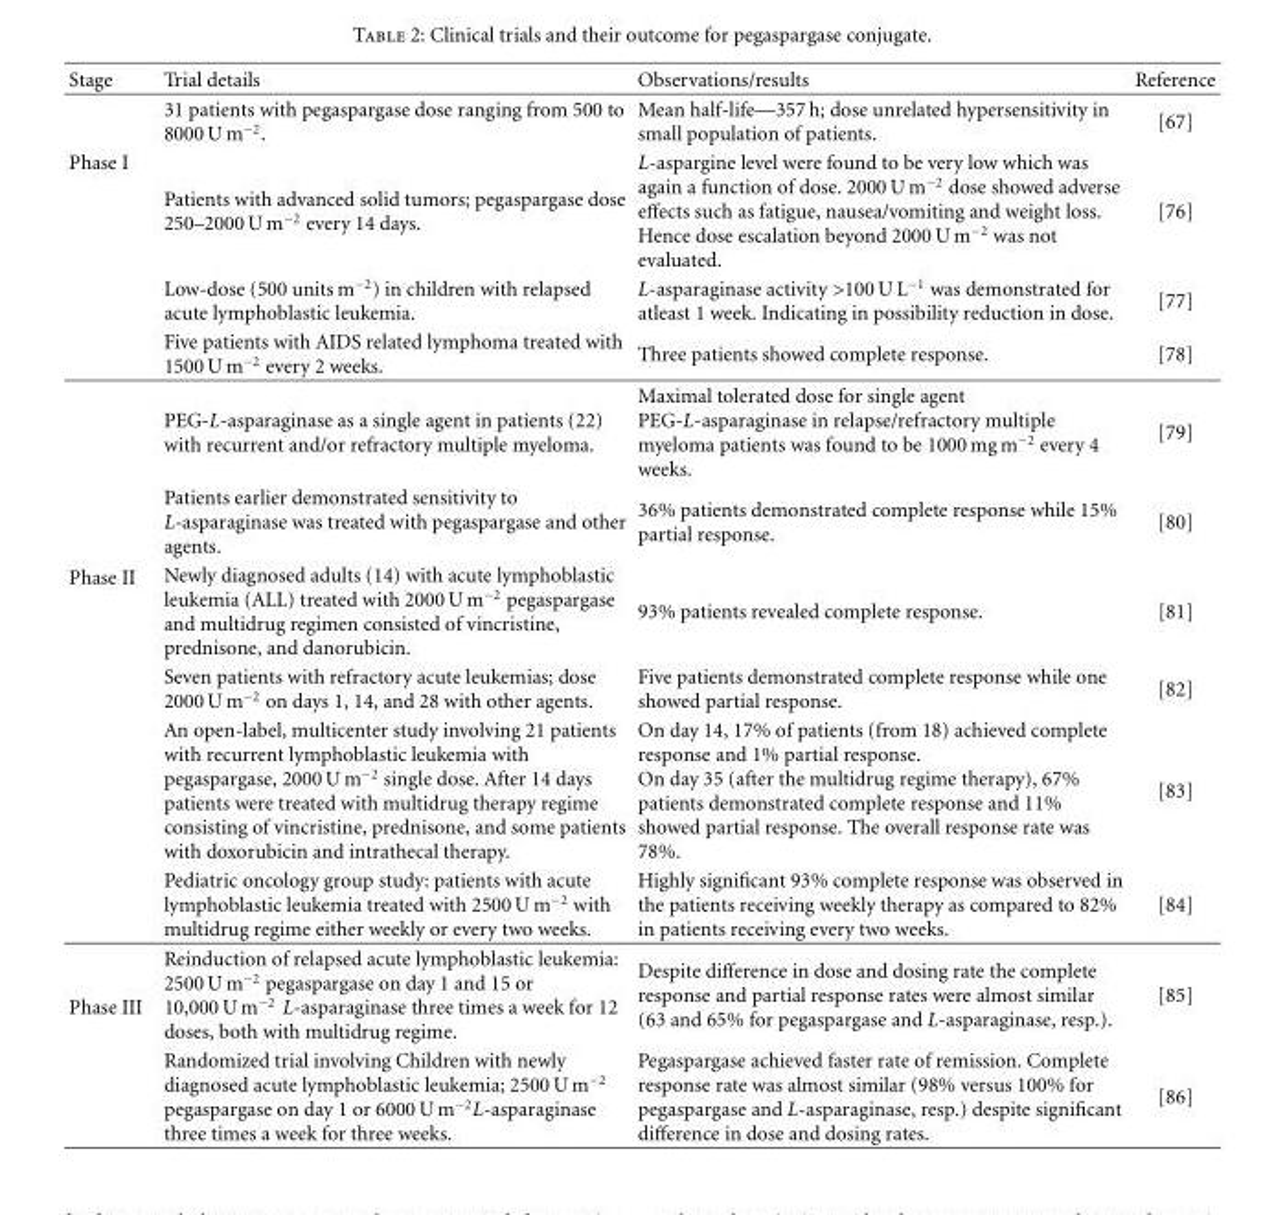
<table><thead><tr><td>Stage</td><td>Trial details</td><td>Observations/results</td><td>Reference</td></tr></thead><tbody><tr><td rowspan="5">Phase I</td><td>31 patients with pegaspargase dose ranging from 500 to 8000 U m<sup>−2</sup>.</td><td>Mean half-life—357 h; dose unrelated hypersensitivity in small population of patients.</td><td>[67]</td></tr><tr><td>Patients with advanced solid tumors; pegaspargase dose 250–2000 U m<sup>−2</sup> every 14 days.</td><td>L-aspargine level were found to be very low which was again a function of dose. 2000 U m<sup>−2</sup> dose showed adverse effects such as fatigue, nausea/vomiting and weight loss. Hence dose escalation beyond 2000 U m<sup>−2</sup> was not evaluated.</td><td>[76]</td></tr><tr><td>Low-dose (500 units m<sup>−2</sup>) in children with relapsed acute lymphoblastic leukemia.</td><td>L-asparaginase activity &gt;100 U L<sup>−1</sup> was demonstrated for atleast 1 week. Indicating in possibility reduction in dose.</td><td>[77]</td></tr><tr><td>Five patients with AIDS related lymphoma treated with 1500 U m<sup>−2</sup> every 2 weeks.</td><td>Three patients showed complete response.</td><td>[78]</td></tr><tr><td>PEG-L-asparaginase as a single agent in patients (22) with recurrent and/or refractory multiple myeloma.</td><td>Maximal tolerated dose for single agent PEG-L-asparaginase in relapse/refractory multiple myeloma patients was found to be 1000 mg m<sup>−2</sup> every 4 weeks.</td><td>[79]</td></tr><tr><td rowspan="5">Phase II</td><td>Patients earlier demonstrated sensitivity to L-asparaginase was treated with pegaspargase and other agents.</td><td>36% patients demonstrated complete response while 15% partial response.</td><td>[80]</td></tr><tr><td>Newly diagnosed adults (14) with acute lymphoblastic leukemia (ALL) treated with 2000 U m<sup>−2</sup> pegaspargase and multidrug regimen consisted of vincristine, prednisone, and danorubicin.</td><td>93% patients revealed complete response.</td><td>[81]</td></tr><tr><td>Seven patients with refractory acute leukemias; dose 2000 U m<sup>−2</sup> on days 1, 14, and 28 with other agents.</td><td>Five patients demonstrated complete response while one showed partial response.</td><td>[82]</td></tr><tr><td>An open-label, multicenter study involving 21 patients with recurrent lymphoblastic leukemia with pegaspargase, 2000 U m<sup>−2</sup> single dose. After 14 days patients were treated with multidrug therapy regime consisting of vincristine, prednisone, and some patients with doxorubicin and intrathecal therapy.</td><td>On day 14, 17% of patients (from 18) achieved complete response and 1% partial response. On day 35 (after the multidrug regime therapy), 67% patients demonstrated complete response and 11% showed partial response. The overall response rate was 78%.</td><td>[83]</td></tr><tr><td>Pediatric oncology group study: patients with acute lymphoblastic leukemia treated with 2500 U m<sup>−2</sup> with multidrug regime either weekly or every two weeks.</td><td>Highly significant 93% complete response was observed in the patients receiving weekly therapy as compared to 82% in patients receiving every two weeks.</td><td>[84]</td></tr><tr><td rowspan="2">Phase III</td><td>Reinduction of relapsed acute lymphoblastic leukemia: 2500 U m<sup>−2</sup> pegaspargase on day 1 and 15 or 10,000 U m<sup>−2</sup> L-asparaginase three times a week for 12 doses, both with multidrug regime.</td><td>Despite difference in dose and dosing rate the complete response and partial response rates were almost similar (63 and 65% for pegaspargase and L-asparaginase, resp.).</td><td>[85]</td></tr><tr><td>Randomized trial involving Children with newly diagnosed acute lymphoblastic leukemia; 2500 U m<sup>−2</sup> pegaspargase on day 1 or 6000 U m<sup>−2</sup>L-asparaginase three times a week for three weeks.</td><td>Pegaspargase achieved faster rate of remission. Complete response rate was almost similar (98% versus 100% for pegaspargase and L-asparaginase, resp.) despite significant difference in dose and dosing rates.</td><td>[86]</td></tr></tbody></table>